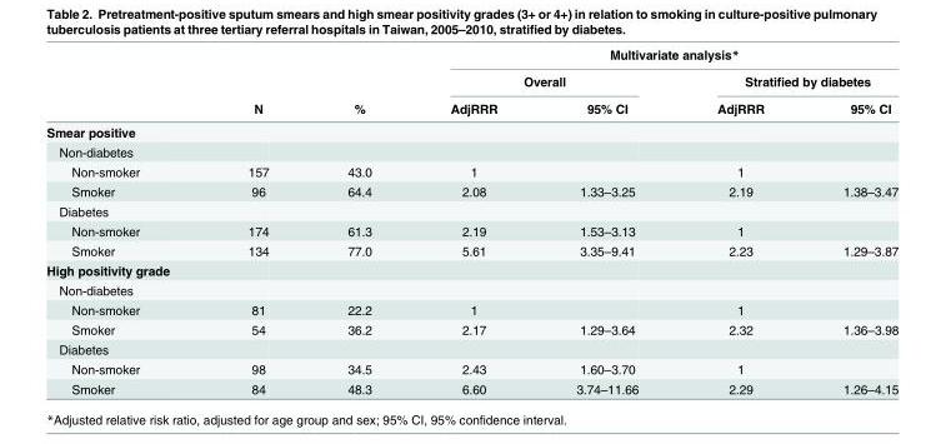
<table><thead><tr><td rowspan="3"></td><td rowspan="3">N</td><td rowspan="3">%</td><td colspan="4">Multivariate analysis*</td></tr><tr><td colspan="2">Overall</td><td colspan="2">Stratified by diabetes</td></tr><tr><td>AdjRRR</td><td>95% CI</td><td>AdjRRR</td><td>95% CI</td></tr></thead><tbody><tr><td colspan="7">Smear positive</td></tr><tr><td colspan="7">Non-diabetes</td></tr><tr><td>Non-smoker</td><td>157</td><td>43.0</td><td>1</td><td></td><td>1</td><td></td></tr><tr><td>Smoker</td><td>96</td><td>64.4</td><td>2.08</td><td>1.33–3.25</td><td>2.19</td><td>1.38–3.47</td></tr><tr><td colspan="7">Diabetes</td></tr><tr><td>Non-smoker</td><td>174</td><td>61.3</td><td>2.19</td><td>1.53–3.13</td><td>1</td><td></td></tr><tr><td>Smoker</td><td>134</td><td>77.0</td><td>5.61</td><td>3.35–9.41</td><td>2.23</td><td>1.29–3.87</td></tr><tr><td colspan="7">High positivity grade</td></tr><tr><td colspan="7">Non-diabetes</td></tr><tr><td>Non-smoker</td><td>81</td><td>22.2</td><td>1</td><td></td><td>1</td><td></td></tr><tr><td>Smoker</td><td>54</td><td>36.2</td><td>2.17</td><td>1.29–3.64</td><td>2.32</td><td>1.36–3.98</td></tr><tr><td colspan="7">Diabetes</td></tr><tr><td>Non-smoker</td><td>98</td><td>34.5</td><td>2.43</td><td>1.60–3.70</td><td>1</td><td></td></tr><tr><td>Smoker</td><td>84</td><td>48.3</td><td>6.60</td><td>3.74–11.66</td><td>2.29</td><td>1.26–4.15</td></tr></tbody></table>